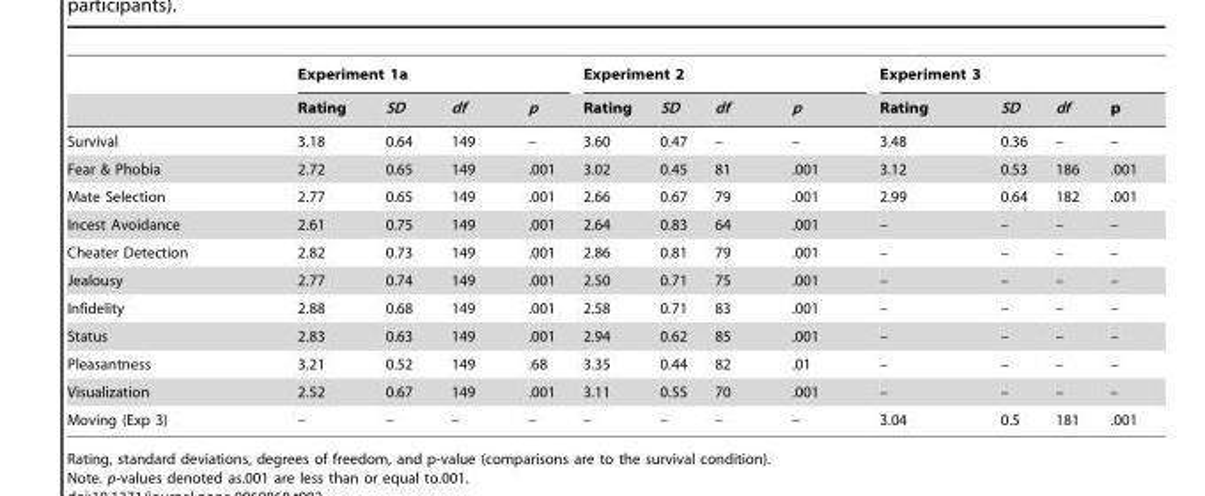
<table><thead><tr><td rowspan="2"></td><td colspan="4">Experiment 1a</td><td colspan="4">Experiment 2</td><td colspan="4">Experiment 3</td></tr><tr><td>Rating</td><td>SD</td><td>df</td><td>p</td><td>Rating</td><td>SD</td><td>df</td><td>p</td><td>Rating</td><td>SD</td><td>df</td><td>p</td></tr></thead><tbody><tr><td>Survival</td><td>3.18</td><td>0.64</td><td>149</td><td>–</td><td>3.60</td><td>0.47</td><td>–</td><td>–</td><td>3.48</td><td>0.36</td><td>–</td><td>–</td></tr><tr><td>Fear &amp; Phobia</td><td>2.72</td><td>0.65</td><td>149</td><td>.001</td><td>3.02</td><td>0.45</td><td>81</td><td>.001</td><td>3.12</td><td>0.53</td><td>186</td><td>.001</td></tr><tr><td>Mate Selection</td><td>2.77</td><td>0.65</td><td>149</td><td>.001</td><td>2.66</td><td>0.67</td><td>79</td><td>.001</td><td>2.99</td><td>0.64</td><td>182</td><td>.001</td></tr><tr><td>Incest Avoidance</td><td>2.61</td><td>0.75</td><td>149</td><td>.001</td><td>2.64</td><td>0.83</td><td>64</td><td>.001</td><td>–</td><td>–</td><td>–</td><td>–</td></tr><tr><td>Cheater Detection</td><td>2.82</td><td>0.73</td><td>149</td><td>.001</td><td>2.86</td><td>0.81</td><td>79</td><td>.001</td><td>–</td><td>–</td><td>–</td><td>–</td></tr><tr><td>Jealousy</td><td>2.77</td><td>0.74</td><td>149</td><td>.001</td><td>2.50</td><td>0.71</td><td>75</td><td>.001</td><td>–</td><td>–</td><td>–</td><td>–</td></tr><tr><td>Infidelity</td><td>2.88</td><td>0.68</td><td>149</td><td>.001</td><td>2.58</td><td>0.71</td><td>83</td><td>.001</td><td>–</td><td>–</td><td>–</td><td>–</td></tr><tr><td>Status</td><td>2.83</td><td>0.63</td><td>149</td><td>.001</td><td>2.94</td><td>0.62</td><td>85</td><td>.001</td><td>–</td><td>–</td><td>–</td><td>–</td></tr><tr><td>Pleasantness</td><td>3.21</td><td>0.52</td><td>149</td><td>.68</td><td>3.35</td><td>0.44</td><td>82</td><td>.01</td><td>–</td><td>–</td><td>–</td><td>–</td></tr><tr><td>Visualization</td><td>2.52</td><td>0.67</td><td>149</td><td>.001</td><td>3.11</td><td>0.55</td><td>70</td><td>.001</td><td>–</td><td>–</td><td>–</td><td>–</td></tr><tr><td>Moving (Exp 3)</td><td>–</td><td>–</td><td>–</td><td>–</td><td>–</td><td>–</td><td>–</td><td>–</td><td>3.04</td><td>0.5</td><td>181</td><td>.001</td></tr></tbody></table>